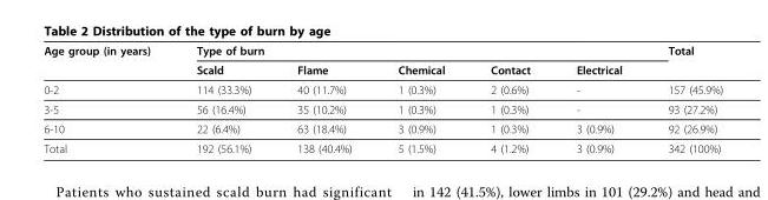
<table><thead><tr><td rowspan="2">Age group (in years)</td><td colspan="5">Type of burn</td><td rowspan="2">Total</td></tr><tr><td>Scald</td><td>Flame</td><td>Chemical</td><td>Contact</td><td>Electrical</td></tr></thead><tbody><tr><td>0-2</td><td>114 (33.3%)</td><td>40 (11.7%)</td><td>1 (0.3%)</td><td>2 (0.6%)</td><td>-</td><td>157 (45.9%)</td></tr><tr><td>3-5</td><td>56 (16.4%)</td><td>35 (10.2%)</td><td>1 (0.3%)</td><td>1 (0.3%)</td><td>-</td><td>93 (27.2%)</td></tr><tr><td>6-10</td><td>22 (6.4%)</td><td>63 (18.4%)</td><td>3 (0.9%)</td><td>1 (0.3%)</td><td>3 (0.9%)</td><td>92 (26.9%)</td></tr><tr><td>Total</td><td>192 (56.1%)</td><td>138 (40.4%)</td><td>5 (1.5%)</td><td>4 (1.2%)</td><td>3 (0.9%)</td><td>342 (100%)</td></tr></tbody></table>